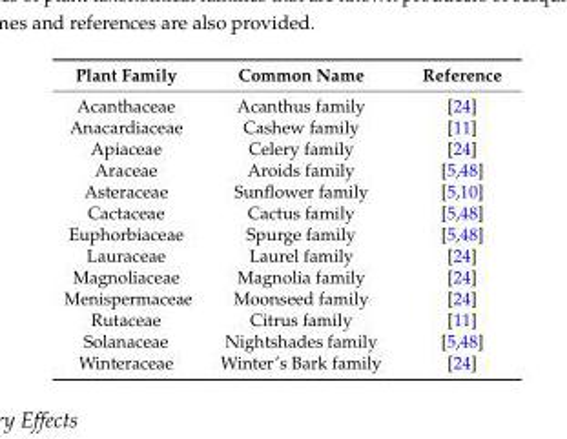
<table><thead><tr><td>Plant Family</td><td>Common Name</td><td>Reference</td></tr></thead><tbody><tr><td>Acanthaceae</td><td>Acanthus family</td><td>[24]</td></tr><tr><td>Anacardiaceae</td><td>Cashew family</td><td>[11]</td></tr><tr><td>Apiaceae</td><td>Celery family</td><td>[24]</td></tr><tr><td>Araceae</td><td>Aroids family</td><td>[5,48]</td></tr><tr><td>Asteraceae</td><td>Sunflower family</td><td>[5,10]</td></tr><tr><td>Cactaceae</td><td>Cactus family</td><td>[5,48]</td></tr><tr><td>Euphorbiaceae</td><td>Spurge family</td><td>[5,48]</td></tr><tr><td>Lauraceae</td><td>Laurel family</td><td>[24]</td></tr><tr><td>Magnoliaceae</td><td>Magnolia family</td><td>[24]</td></tr><tr><td>Menispermaceae</td><td>Moonseed family</td><td>[24]</td></tr><tr><td>Rutaceae</td><td>Citrus family</td><td>[11]</td></tr><tr><td>Solanaceae</td><td>Nightshades family</td><td>[5,48]</td></tr><tr><td>Winteraceae</td><td>Winter’s Bark family</td><td>[24]</td></tr></tbody></table>